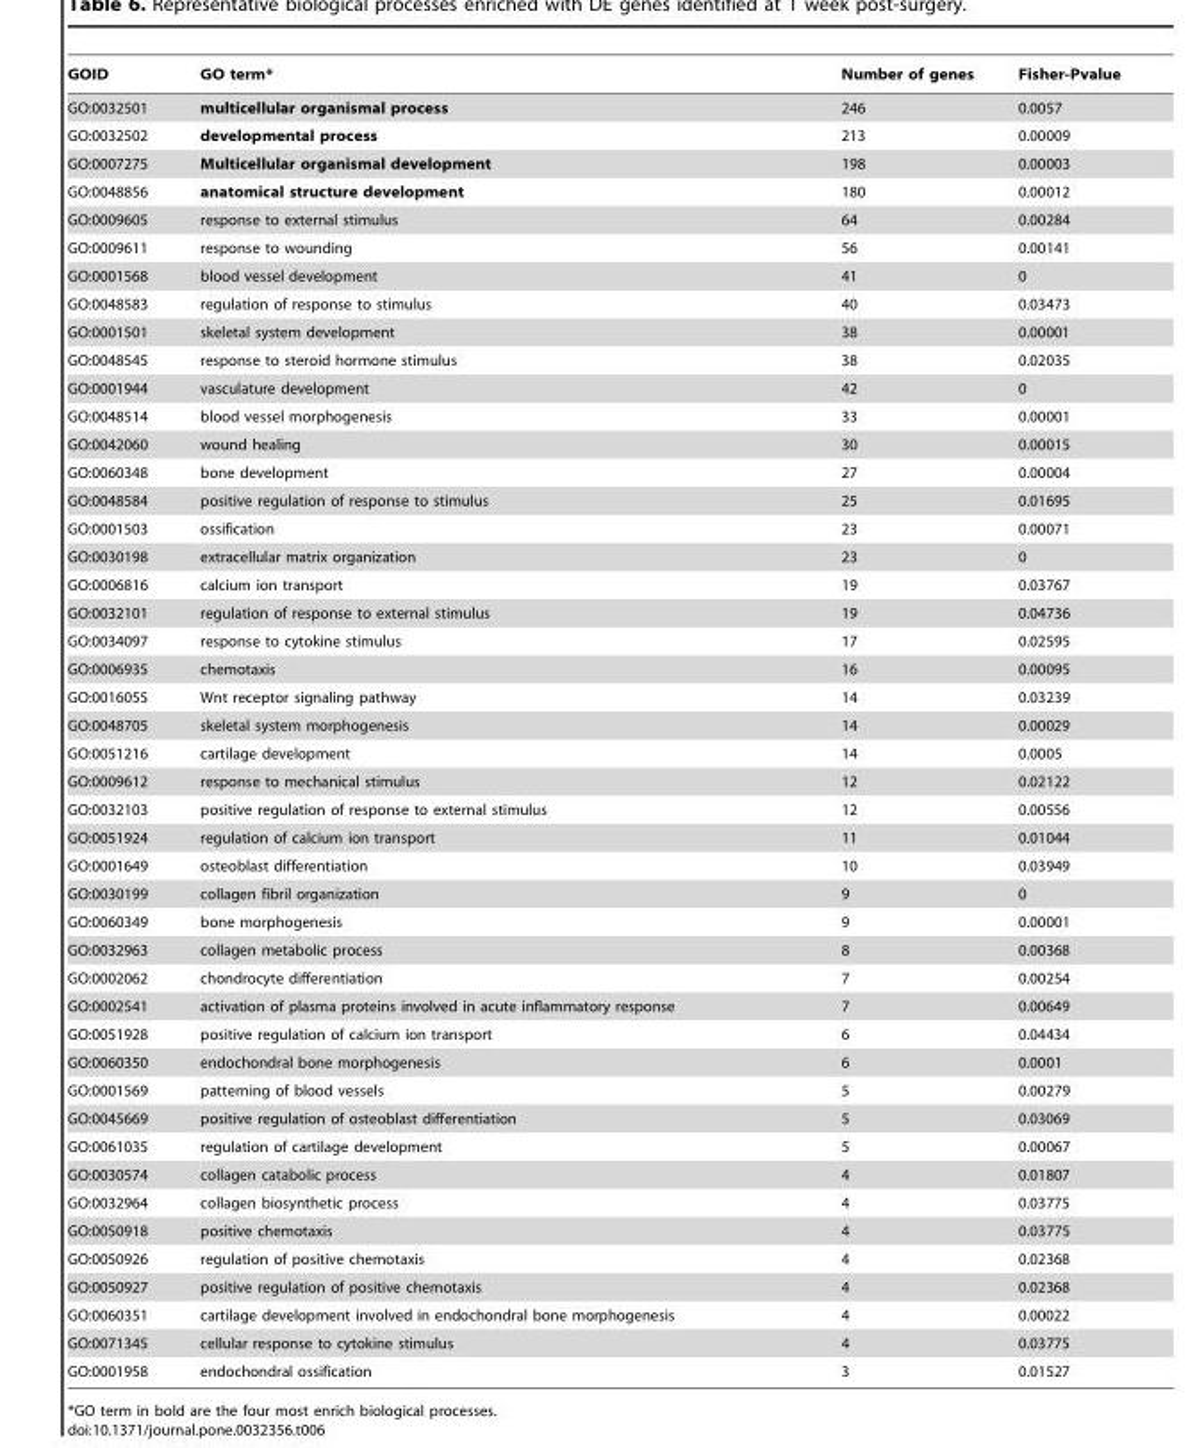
<table><thead><tr><td>GOID</td><td>GO term*</td><td>Number of genes</td><td>Fisher-Pvalue</td></tr></thead><tbody><tr><td>GO:0032501</td><td>multicellular organismal process</td><td>246</td><td>0.0057</td></tr><tr><td>GO:0032502</td><td>developmental process</td><td>213</td><td>0.00009</td></tr><tr><td>GO:0007275</td><td>Multicellular organismal development</td><td>198</td><td>0.00003</td></tr><tr><td>GO:0048856</td><td>anatomical structure development</td><td>180</td><td>0.00012</td></tr><tr><td>GO:0009605</td><td>response to external stimulus</td><td>64</td><td>0.00284</td></tr><tr><td>GO:0009611</td><td>response to wounding</td><td>56</td><td>0.00141</td></tr><tr><td>GO:0001568</td><td>blood vessel development</td><td>41</td><td>0</td></tr><tr><td>GO:0048583</td><td>regulation of response to stimulus</td><td>40</td><td>0.03473</td></tr><tr><td>GO:0001501</td><td>skeletal system development</td><td>38</td><td>0.00001</td></tr><tr><td>GO:0048545</td><td>response to steroid hormone stimulus</td><td>38</td><td>0.02035</td></tr><tr><td>GO:0001944</td><td>vasculature development</td><td>42</td><td>0</td></tr><tr><td>GO:0048514</td><td>blood vessel morphogenesis</td><td>33</td><td>0.00001</td></tr><tr><td>GO:0042060</td><td>wound healing</td><td>30</td><td>0.00015</td></tr><tr><td>GO:0060348</td><td>bone development</td><td>27</td><td>0.00004</td></tr><tr><td>GO:0048584</td><td>positive regulation of response to stimulus</td><td>25</td><td>0.01695</td></tr><tr><td>GO:0001503</td><td>ossification</td><td>23</td><td>0.00071</td></tr><tr><td>GO:0030198</td><td>extracellular matrix organization</td><td>23</td><td>0</td></tr><tr><td>GO:0006816</td><td>calcium ion transport</td><td>19</td><td>0.03767</td></tr><tr><td>GO:0032101</td><td>regulation of response to external stimulus</td><td>19</td><td>0.04736</td></tr><tr><td>GO:0034097</td><td>response to cytokine stimulus</td><td>17</td><td>0.02595</td></tr><tr><td>GO:0006935</td><td>chemotaxis</td><td>16</td><td>0.00095</td></tr><tr><td>GO:0016055</td><td>Wnt receptor signaling pathway</td><td>14</td><td>0.03239</td></tr><tr><td>GO:0048705</td><td>skeletal system morphogenesis</td><td>14</td><td>0.00029</td></tr><tr><td>GO:0051216</td><td>cartilage development</td><td>14</td><td>0.0005</td></tr><tr><td>GO:0009612</td><td>response to mechanical stimulus</td><td>12</td><td>0.02122</td></tr><tr><td>GO:0032103</td><td>positive regulation of response to external stimulus</td><td>12</td><td>0.00556</td></tr><tr><td>GO:0051924</td><td>regulation of calcium ion transport</td><td>11</td><td>0.01044</td></tr><tr><td>GO:0001649</td><td>osteoblast differentiation</td><td>10</td><td>0.03949</td></tr><tr><td>GO:0030199</td><td>collagen fibril organization</td><td>9</td><td>0</td></tr><tr><td>GO:0060349</td><td>bone morphogenesis</td><td>9</td><td>0.00001</td></tr><tr><td>GO:0032963</td><td>collagen metabolic process</td><td>8</td><td>0.00368</td></tr><tr><td>GO:0002062</td><td>chondrocyte differentiation</td><td>7</td><td>0.00254</td></tr><tr><td>GO:0002541</td><td>activation of plasma proteins involved in acute inflammatory response</td><td>7</td><td>0.00649</td></tr><tr><td>GO:0051928</td><td>positive regulation of calcium ion transport</td><td>6</td><td>0.04434</td></tr><tr><td>GO:0060350</td><td>endochondral bone morphogenesis</td><td>6</td><td>0.0001</td></tr><tr><td>GO:0001569</td><td>patterning of blood vessels</td><td>5</td><td>0.00279</td></tr><tr><td>GO:0045669</td><td>positive regulation of osteoblast differentiation</td><td>5</td><td>0.03069</td></tr><tr><td>GO:0061035</td><td>regulation of cartilage development</td><td>5</td><td>0.00067</td></tr><tr><td>GO:0030574</td><td>collagen catabolic process</td><td>4</td><td>0.01807</td></tr><tr><td>GO:0032964</td><td>collagen biosynthetic process</td><td>4</td><td>0.03775</td></tr><tr><td>GO:0050918</td><td>positive chemotaxis</td><td>4</td><td>0.03775</td></tr><tr><td>GO:0050926</td><td>regulation of positive chemotaxis</td><td>4</td><td>0.02368</td></tr><tr><td>GO:0050927</td><td>positive regulation of positive chemotaxis</td><td>4</td><td>0.02368</td></tr><tr><td>GO:0060351</td><td>cartilage development involved in endochondral bone morphogenesis</td><td>4</td><td>0.00022</td></tr><tr><td>GO:0071345</td><td>cellular response to cytokine stimulus</td><td>4</td><td>0.03775</td></tr><tr><td>GO:0001958</td><td>endochondral ossification</td><td>3</td><td>0.01527</td></tr></tbody></table>